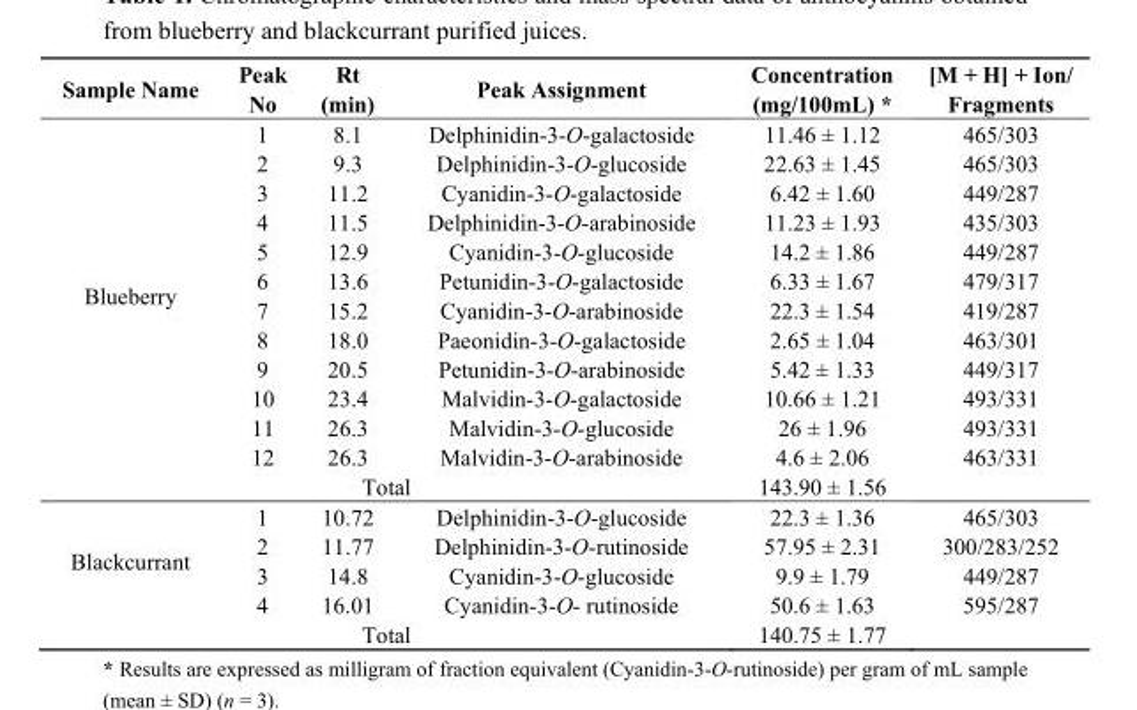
<table><thead><tr><td>Sample Name</td><td>Peak No</td><td>Rt (min)</td><td>Peak Assignment</td><td>Concentration (mg/100mL) *</td><td>[M + H] + Ion/ Fragments</td></tr></thead><tbody><tr><td rowspan="12">Blueberry</td><td>1</td><td>8.1</td><td>Delphinidin-3-O-galactoside</td><td>11.46 ± 1.12</td><td>465/303</td></tr><tr><td>2</td><td>9.3</td><td>Delphinidin-3-O-glucoside</td><td>22.63 ± 1.45</td><td>465/303</td></tr><tr><td>3</td><td>11.2</td><td>Cyanidin-3-O-galactoside</td><td>6.42 ± 1.60</td><td>449/287</td></tr><tr><td>4</td><td>11.5</td><td>Delphinidin-3-O-arabinoside</td><td>11.23 ± 1.93</td><td>435/303</td></tr><tr><td>5</td><td>12.9</td><td>Cyanidin-3-O-glucoside</td><td>14.2 ± 1.86</td><td>449/287</td></tr><tr><td>6</td><td>13.6</td><td>Petunidin-3-O-galactoside</td><td>6.33 ± 1.67</td><td>479/317</td></tr><tr><td>7</td><td>15.2</td><td>Cyanidin-3-O-arabinoside</td><td>22.3 ± 1.54</td><td>419/287</td></tr><tr><td>8</td><td>18.0</td><td>Paeonidin-3-O-galactoside</td><td>2.65 ± 1.04</td><td>463/301</td></tr><tr><td>9</td><td>20.5</td><td>Petunidin-3-O-arabinoside</td><td>5.42 ± 1.33</td><td>449/317</td></tr><tr><td>10</td><td>23.4</td><td>Malvidin-3-O-galactoside</td><td>10.66 ± 1.21</td><td>493/331</td></tr><tr><td>11</td><td>26.3</td><td>Malvidin-3-O-glucoside</td><td>26 ± 1.96</td><td>493/331</td></tr><tr><td>12</td><td>26.3</td><td>Malvidin-3-O-arabinoside</td><td>4.6 ± 2.06</td><td>463/331</td></tr><tr><td colspan="4">Total</td><td>143.90 ± 1.56</td><td></td></tr><tr><td rowspan="4">Blackcurrant</td><td>1</td><td>10.72</td><td>Delphinidin-3-O-glucoside</td><td>22.3 ± 1.36</td><td>465/303</td></tr><tr><td>2</td><td>11.77</td><td>Delphinidin-3-O-rutinoside</td><td>57.95 ± 2.31</td><td>300/283/252</td></tr><tr><td>3</td><td>14.8</td><td>Cyanidin-3-O-glucoside</td><td>9.9 ± 1.79</td><td>449/287</td></tr><tr><td>4</td><td>16.01</td><td>Cyanidin-3-O- rutinoside</td><td>50.6 ± 1.63</td><td>595/287</td></tr><tr><td colspan="4">Total</td><td>140.75 ± 1.77</td><td></td></tr></tbody></table>